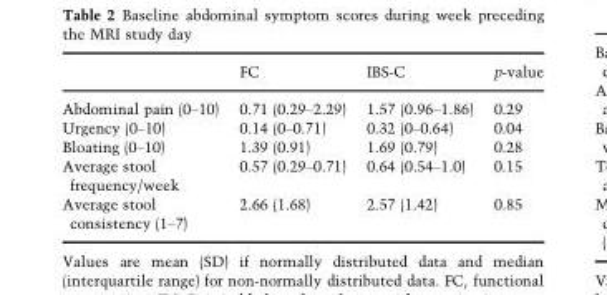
<table><thead><tr><td></td><td>FC</td><td>IBS-C</td><td>p-value</td></tr></thead><tbody><tr><td>Abdominal pain (0–10)</td><td>0.71 (0.29–2.29)</td><td>1.57 (0.96–1.86)</td><td>0.29</td></tr><tr><td>Urgency (0–10)</td><td>0.14 (0–0.71)</td><td>0.32 (0–0.64)</td><td>0.04</td></tr><tr><td>Bloating (0–10)</td><td>1.39 (0.91)</td><td>1.69 (0.79)</td><td>0.28</td></tr><tr><td>Average stool frequency/week</td><td>0.57 (0.29–0.71)</td><td>0.64 (0.54–1.0)</td><td>0.15</td></tr><tr><td>Average stool consistency (1–7)</td><td>2.66 (1.68)</td><td>2.57 (1.42)</td><td>0.85</td></tr></tbody></table>